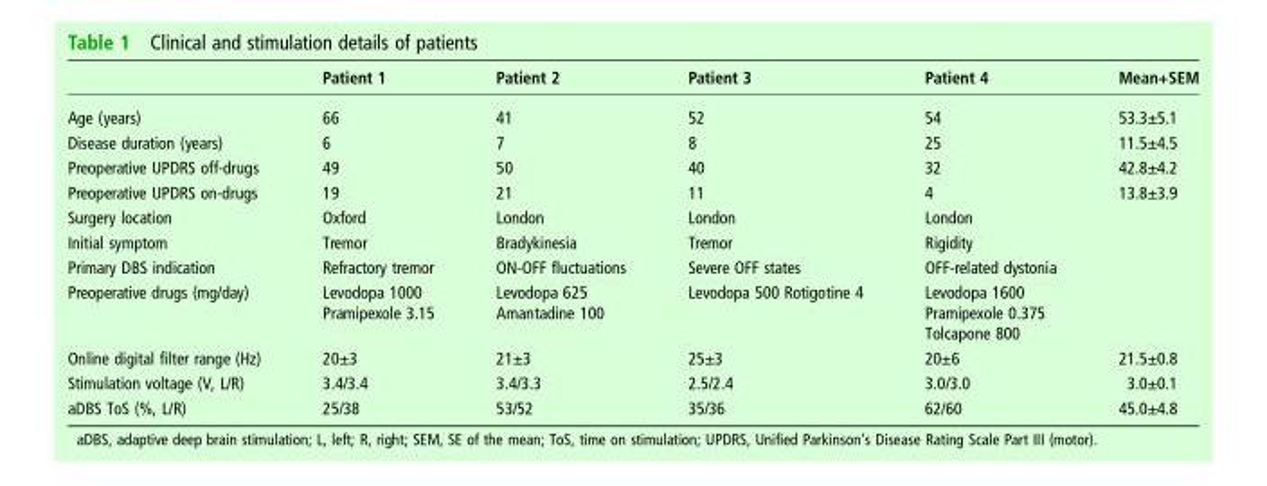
<table><thead><tr><td></td><td>Patient 1</td><td>Patient 2</td><td>Patient 3</td><td>Patient 4</td><td>Mean+SEM</td></tr></thead><tbody><tr><td>Age (years)</td><td>66</td><td>41</td><td>52</td><td>54</td><td>53.3±5.1</td></tr><tr><td>Disease duration (years)</td><td>6</td><td>7</td><td>8</td><td>25</td><td>11.5±4.5</td></tr><tr><td>Preoperative UPDRS off-drugs</td><td>49</td><td>50</td><td>40</td><td>32</td><td>42.8±4.2</td></tr><tr><td>Preoperative UPDRS on-drugs</td><td>19</td><td>21</td><td>11</td><td>4</td><td>13.8±3.9</td></tr><tr><td>Surgery location</td><td>Oxford</td><td>London</td><td>London</td><td>London</td><td></td></tr><tr><td>Initial symptom</td><td>Tremor</td><td>Bradykinesia</td><td>Tremor</td><td>Rigidity</td><td></td></tr><tr><td>Primary DBS indication</td><td>Refractory tremor</td><td>ON-OFF fluctuations</td><td>Severe OFF states</td><td>OFF-related dystonia</td><td></td></tr><tr><td>Preoperative drugs (mg/day)</td><td>Levodopa 1000 Pramipexole 3.15</td><td>Levodopa 625 Amantadine 100</td><td>Levodopa 500 Rotigotine 4</td><td>Levodopa 1600 Pramipexole 0.375 Tolcapone 800</td><td></td></tr><tr><td>Online digital filter range (Hz)</td><td>20±3</td><td>21±3</td><td>25±3</td><td>20±6</td><td>21.5±0.8</td></tr><tr><td>Stimulation voltage (V, L/R)</td><td>3.4/3.4</td><td>3.4/3.3</td><td>2.5/2.4</td><td>3.0/3.0</td><td>3.0±0.1</td></tr><tr><td>aDBS ToS (%, L/R)</td><td>25/38</td><td>53/52</td><td>35/36</td><td>62/60</td><td>45.0±4.8</td></tr></tbody></table>